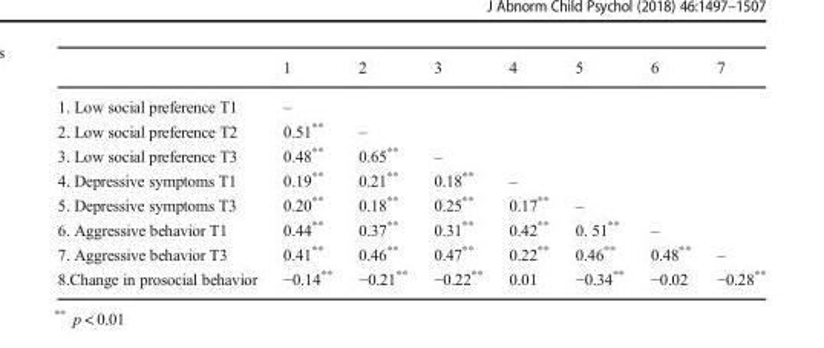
<table><thead><tr><td></td><td>1</td><td>2</td><td>3</td><td>4</td><td>5</td><td>6</td><td>7</td></tr></thead><tbody><tr><td>1. Low social preference T1</td><td>–</td><td></td><td></td><td></td><td></td><td></td><td></td></tr><tr><td>2. Low social preference T2</td><td>0.51**</td><td>–</td><td></td><td></td><td></td><td></td><td></td></tr><tr><td>3. Low social preference T3</td><td>0.48**</td><td>0.65**</td><td>–</td><td></td><td></td><td></td><td></td></tr><tr><td>4. Depressive symptoms T1</td><td>0.19**</td><td>0.21**</td><td>0.18**</td><td>–</td><td></td><td></td><td></td></tr><tr><td>5. Depressive symptoms T3</td><td>0.20**</td><td>0.18**</td><td>0.25**</td><td>0.17**</td><td>–</td><td></td><td></td></tr><tr><td>6. Aggressive behavior T1</td><td>0.44**</td><td>0.37**</td><td>0.31**</td><td>0.42**</td><td>0. 51**</td><td>–</td><td></td></tr><tr><td>7. Aggressive behavior T3</td><td>0.41**</td><td>0.46**</td><td>0.47**</td><td>0.22**</td><td>0.46**</td><td>0.48**</td><td>–</td></tr><tr><td>8.Change in prosocial behavior</td><td>−0.14**</td><td>−0.21**</td><td>−0.22**</td><td>0.01</td><td>−0.34**</td><td>−0.02</td><td>−0.28**</td></tr></tbody></table>